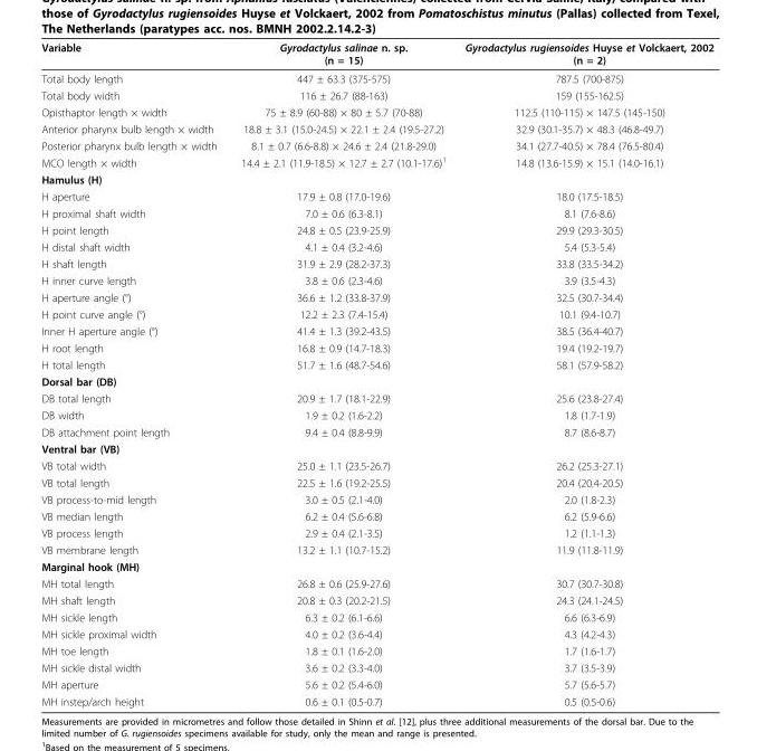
<table><thead><tr><td>Variable</td><td>Gyrodactylus salinae n. sp. (n = 15)</td><td>Gyrodactylus rugiensoides Huyse et Volckaert, 2002 (n = 2)</td></tr></thead><tbody><tr><td>Total body length</td><td>447 ± 63.3 (375-575)</td><td>787.5 (700-875)</td></tr><tr><td>Total body width</td><td>116 ± 26.7 (88-163)</td><td>159 (155-162.5)</td></tr><tr><td>Opisthaptor length × width</td><td>75 ± 8.9 (60-88) × 80 ± 5.7 (70-88)</td><td>112.5 (110-115) × 147.5 (145-150)</td></tr><tr><td>Anterior pharynx bulb length × width</td><td>18.8 ± 3.1 (15.0-24.5) × 22.1 ± 2.4 (19.5-27.2)</td><td>32.9 (30.1-35.7) × 48.3 (46.8-49.7)</td></tr><tr><td>Posterior pharynx bulb length × width</td><td>8.1 ± 0.7 (6.6-8.8) × 24.6 ± 2.4 (21.8-29.0)</td><td>34.1 (27.7-40.5) × 78.4 (76.5-80.4)</td></tr><tr><td>MCO length × width</td><td>14.4 ± 2.1 (11.9-18.5) × 12.7 ± 2.7 (10.1-17.6)<sup>1</sup></td><td>14.8 (13.6-15.9) × 15.1 (14.0-16.1)</td></tr><tr><td colspan="3">Hamulus (H)</td></tr><tr><td>H aperture</td><td>17.9 ± 0.8 (17.0-19.6)</td><td>18.0 (17.5-18.5)</td></tr><tr><td>H proximal shaft width</td><td>7.0 ± 0.6 (6.3-8.1)</td><td>8.1 (7.6-8.6)</td></tr><tr><td>H point length</td><td>24.8 ± 0.5 (23.9-25.9)</td><td>29.9 (29.3-30.5)</td></tr><tr><td>H distal shaft width</td><td>4.1 ± 0.4 (3.2-4.6)</td><td>5.4 (5.3-5.4)</td></tr><tr><td>H shaft length</td><td>31.9 ± 2.9 (28.2-37.3)</td><td>33.8 (33.5-34.2)</td></tr><tr><td>H inner curve length</td><td>3.8 ± 0.6 (2.3-4.6)</td><td>3.9 (3.5-4.3)</td></tr><tr><td>H aperture angle (°)</td><td>36.6 ± 1.2 (33.8-37.9)</td><td>32.5 (30.7-34.4)</td></tr><tr><td>H point curve angle (°)</td><td>12.2 ± 2.3 (7.4-15.4)</td><td>10.1 (9.4-10.7)</td></tr><tr><td>Inner H aperture angle (°)</td><td>41.4 ± 1.3 (39.2-43.5)</td><td>38.5 (36.4-40.7)</td></tr><tr><td>H root length</td><td>16.8 ± 0.9 (14.7-18.3)</td><td>19.4 (19.2-19.7)</td></tr><tr><td>H total length</td><td>51.7 ± 1.6 (48.7-54.6)</td><td>58.1 (57.9-58.2)</td></tr><tr><td colspan="3">Dorsal bar (DB)</td></tr><tr><td>DB total length</td><td>20.9 ± 1.7 (18.1-22.9)</td><td>25.6 (23.8-27.4)</td></tr><tr><td>DB width</td><td>1.9 ± 0.2 (1.6-2.2)</td><td>1.8 (1.7-1.9)</td></tr><tr><td>DB attachment point length</td><td>9.4 ± 0.4 (8.8-9.9)</td><td>8.7 (8.6-8.7)</td></tr><tr><td colspan="3">Ventral bar (VB)</td></tr><tr><td>VB total width</td><td>25.0 ± 1.1 (23.5-26.7)</td><td>26.2 (25.3-27.1)</td></tr><tr><td>VB total length</td><td>22.5 ± 1.6 (19.2-25.5)</td><td>20.4 (20.4-20.5)</td></tr><tr><td>VB process-to-mid length</td><td>3.0 ± 0.5 (2.1-4.0)</td><td>2.0 (1.8-2.3)</td></tr><tr><td>VB median length</td><td>6.2 ± 0.4 (5.6-6.8)</td><td>6.2 (5.9-6.6)</td></tr><tr><td>VB process length</td><td>2.9 ± 0.4 (2.1-3.5)</td><td>1.2 (1.1-1.3)</td></tr><tr><td>VB membrane length</td><td>13.2 ± 1.1 (10.7-15.2)</td><td>11.9 (11.8-11.9)</td></tr><tr><td colspan="3">Marginal hook (MH)</td></tr><tr><td>MH total length</td><td>26.8 ± 0.6 (25.9-27.6)</td><td>30.7 (30.7-30.8)</td></tr><tr><td>MH shaft length</td><td>20.8 ± 0.3 (20.2-21.5)</td><td>24.3 (24.1-24.5)</td></tr><tr><td>MH sickle length</td><td>6.3 ± 0.2 (6.1-6.6)</td><td>6.6 (6.3-6.9)</td></tr><tr><td>MH sickle proximal width</td><td>4.0 ± 0.2 (3.6-4.4)</td><td>4.3 (4.2-4.3)</td></tr><tr><td>MH toe length</td><td>1.8 ± 0.1 (1.6-2.0)</td><td>1.7 (1.6-1.7)</td></tr><tr><td>MH sickle distal width</td><td>3.6 ± 0.2 (3.3-4.0)</td><td>3.7 (3.5-3.9)</td></tr><tr><td>MH aperture</td><td>5.6 ± 0.2 (5.4-6.0)</td><td>5.7 (5.6-5.7)</td></tr><tr><td>MH instep/arch height</td><td>0.6 ± 0.1 (0.5-0.7)</td><td>0.5 (0.5-0.6)</td></tr></tbody></table>